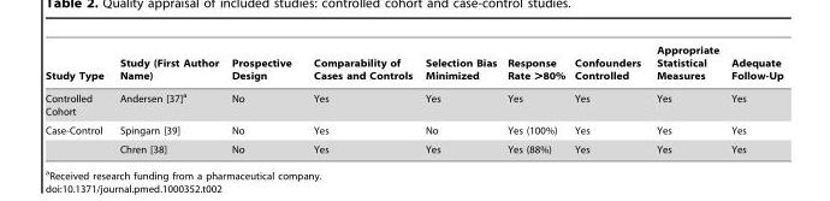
<table><thead><tr><td>Study Type</td><td>Study (First Author Name)</td><td>Prospective Design</td><td>Comparability of Cases and Controls</td><td>Selection Bias Minimized</td><td>Response Rate &gt;80%</td><td>Confounders Controlled</td><td>Appropriate Statistical Measures</td><td>Adequate Follow-Up</td></tr></thead><tbody><tr><td>Controlled Cohort</td><td>Andersen [37]a</td><td>No</td><td>Yes</td><td>Yes</td><td>Yes</td><td>Yes</td><td>Yes</td><td>Yes</td></tr><tr><td rowspan="2">Case-Control</td><td>Spingarn [39]</td><td>No</td><td>Yes</td><td>No</td><td>Yes (100%)</td><td>Yes</td><td>Yes</td><td>Yes</td></tr><tr><td>Chren [38]</td><td>No</td><td>Yes</td><td>Yes</td><td>Yes (88%)</td><td>Yes</td><td>Yes</td><td>Yes</td></tr></tbody></table>